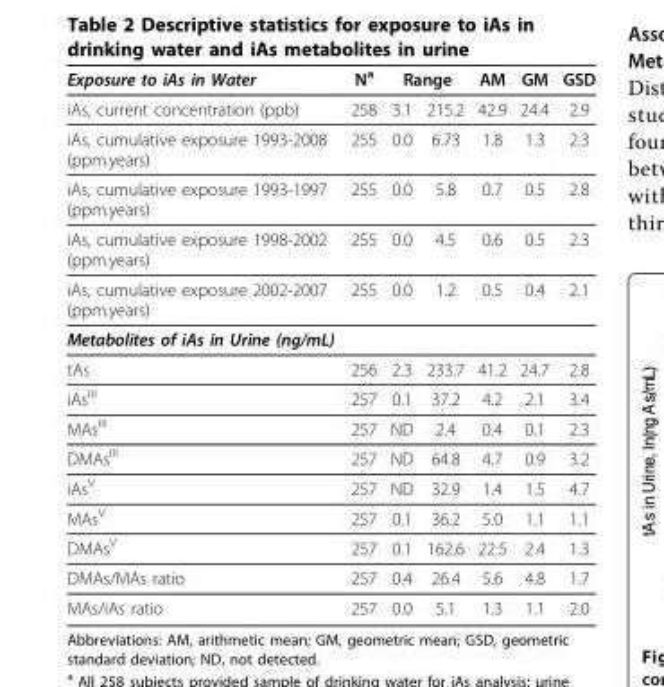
<table><thead><tr><td rowspan="2">Exposure to iAs in Water iAs, current concentration (ppb)</td><td rowspan="2">Na 258</td><td colspan="2">Range</td><td rowspan="2">AM 42.9</td><td rowspan="2">GM 24.4</td><td rowspan="2">GSD 2.9</td></tr><tr><td>3.1</td><td>215.2</td></tr></thead><tbody><tr><td>iAs, cumulative exposure 1993-2008 (ppm.years)</td><td>255</td><td>0.0</td><td>6.73</td><td>1.8</td><td>1.3</td><td>2.3</td></tr><tr><td>iAs, cumulative exposure 1993-1997 (ppm.years)</td><td>255</td><td>0.0</td><td>5.8</td><td>0.7</td><td>0.5</td><td>2.8</td></tr><tr><td>iAs, cumulative exposure 1998-2002 (ppm.years)</td><td>255</td><td>0.0</td><td>4.5</td><td>0.6</td><td>0.5</td><td>2.3</td></tr><tr><td>iAs, cumulative exposure 2002-2007 (ppm.years)</td><td>255</td><td>0.0</td><td>1.2</td><td>0.5</td><td>0.4</td><td>2.1</td></tr><tr><td colspan="7">Metabolites of iAs in Urine (ng/mL)</td></tr><tr><td>tAs</td><td>256</td><td>2.3</td><td>233.7</td><td>41.2</td><td>24.7</td><td>2.8</td></tr><tr><td>iAs<sup>III</sup></td><td>257</td><td>0.1</td><td>37.2</td><td>4.2</td><td>2.1</td><td>3.4</td></tr><tr><td>MAs<sup>III</sup></td><td>257</td><td>ND</td><td>2.4</td><td>0.4</td><td>0.1</td><td>2.3</td></tr><tr><td>DMAs<sup>III</sup></td><td>257</td><td>ND</td><td>64.8</td><td>4.7</td><td>0.9</td><td>3.2</td></tr><tr><td>iAs<sup>V</sup></td><td>257</td><td>ND</td><td>32.9</td><td>1.4</td><td>1.5</td><td>4.7</td></tr><tr><td>MAs<sup>V</sup></td><td>257</td><td>0.1</td><td>36.2</td><td>5.0</td><td>1.1</td><td>1.1</td></tr><tr><td>DMAs<sup>V</sup></td><td>257</td><td>0.1</td><td>162.6</td><td>22.5</td><td>2.4</td><td>1.3</td></tr><tr><td>DMAs/MAs ratio</td><td>257</td><td>0.4</td><td>26.4</td><td>5.6</td><td>4.8</td><td>1.7</td></tr><tr><td>MAs/iAs ratio</td><td>257</td><td>0.0</td><td>5.1</td><td>1.3</td><td>1.1</td><td>2.0</td></tr></tbody></table>